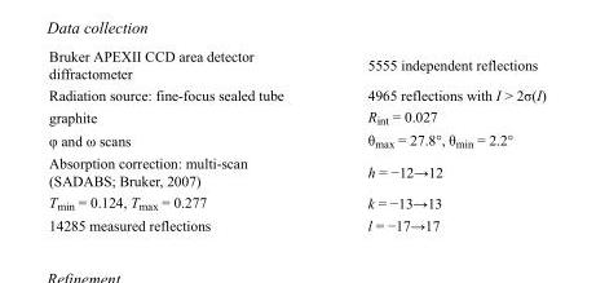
<table><tbody><tr><td>Bruker APEXII CCD area detector diffractometer</td><td>5555 independent reflections</td></tr><tr><td>Radiation source: fine-focus sealed tube</td><td>4965 reflections with I &gt; 2σ(I)</td></tr><tr><td>graphite</td><td>R<sub>int</sub> = 0.027</td></tr><tr><td>φ and ω scans</td><td>θ<sub>max</sub> = 27.8°, θ<sub>min</sub> = 2.2°</td></tr><tr><td>Absorption correction: multi-scan (SADABS; Bruker, 2007)</td><td>h = −12→12</td></tr><tr><td>T<sub>min</sub> = 0.124, T<sub>max</sub> = 0.277</td><td>k = −13→13</td></tr><tr><td>14285 measured reflections</td><td>l = −17→17</td></tr></tbody></table>